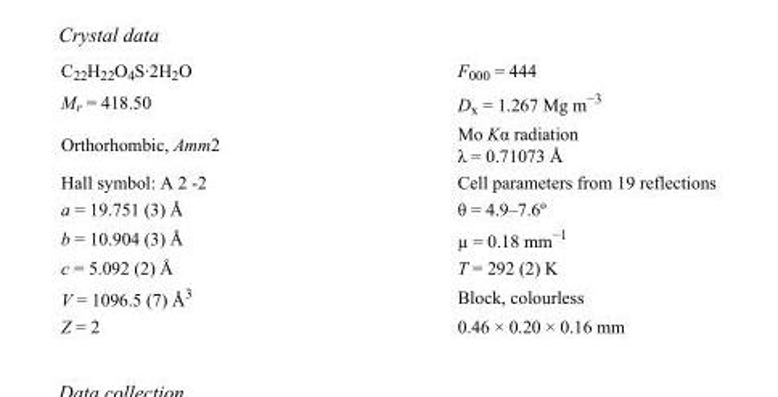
<table><tbody><tr><td>C<sub>22</sub>H<sub>22</sub>O<sub>4</sub>S·2H<sub>2</sub>O</td><td>F000 = 444</td></tr><tr><td>M<sub>r</sub> = 418.50</td><td>D<sub>x</sub> = 1.267 Mg m<sup>−3</sup></td></tr><tr><td>Orthorhombic, Amm2</td><td>Mo Kα radiation λ = 0.71073 Å</td></tr><tr><td>Hall symbol: A 2 -2</td><td>Cell parameters from 19 reflections</td></tr><tr><td>a = 19.751 (3) Å</td><td>θ = 4.9–7.6º</td></tr><tr><td>b = 10.904 (3) Å</td><td>µ = 0.18 mm<sup>−1</sup></td></tr><tr><td>c = 5.092 (2) Å</td><td>T = 292 (2) K</td></tr><tr><td>V = 1096.5 (7) Å<sup>3</sup></td><td>Block, colourless</td></tr><tr><td>Z = 2</td><td>0.46 × 0.20 × 0.16 mm</td></tr></tbody></table>